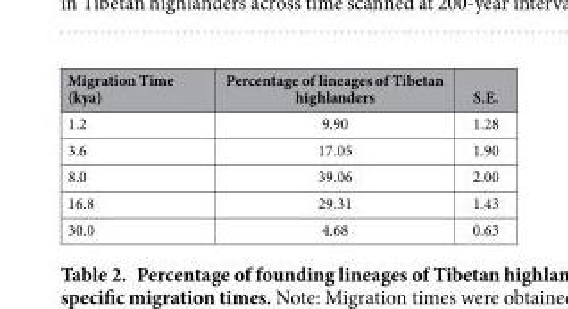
<table><thead><tr><td>Migration Time (kya)</td><td>Percentage of lineages of Tibetan highlanders</td><td>S.E.</td></tr></thead><tbody><tr><td>1.2</td><td>9.90</td><td>1.28</td></tr><tr><td>3.6</td><td>17.05</td><td>1.90</td></tr><tr><td>8.0</td><td>39.06</td><td>2.00</td></tr><tr><td>16.8</td><td>29.31</td><td>1.43</td></tr><tr><td>30.0</td><td>4.68</td><td>0.63</td></tr></tbody></table>